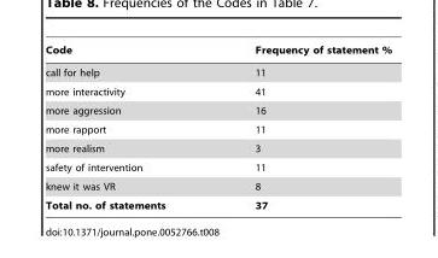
<table><thead><tr><td>Code</td><td>Frequency of statement %</td></tr></thead><tbody><tr><td>call for help</td><td>11</td></tr><tr><td>more interactivity</td><td>41</td></tr><tr><td>more aggression</td><td>16</td></tr><tr><td>more rapport</td><td>11</td></tr><tr><td>more realism</td><td>3</td></tr><tr><td>safety of intervention</td><td>11</td></tr><tr><td>knew it was VR</td><td>8</td></tr><tr><td>Total no. of statements</td><td>37</td></tr></tbody></table>